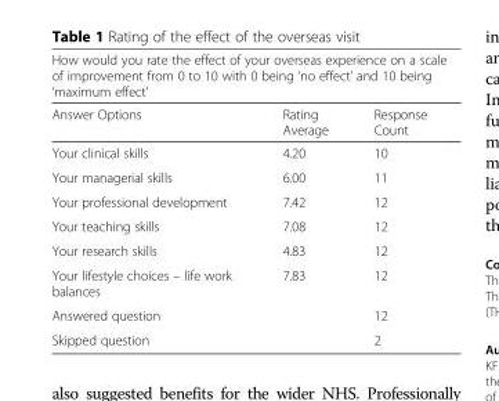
<table><thead><tr><td colspan="3">How would you rate the effect of your overseas experience on a scale of improvement from 0 to 10 with 0 being ‘no effect’ and 10 being ‘maximum effect’</td></tr><tr><td>Answer Options</td><td>Rating Average</td><td>Response Count</td></tr></thead><tbody><tr><td>Your clinical skills</td><td>4.20</td><td>10</td></tr><tr><td>Your managerial skills</td><td>6.00</td><td>11</td></tr><tr><td>Your professional development</td><td>7.42</td><td>12</td></tr><tr><td>Your teaching skills</td><td>7.08</td><td>12</td></tr><tr><td>Your research skills</td><td>4.83</td><td>12</td></tr><tr><td>Your lifestyle choices – life work balances</td><td>7.83</td><td>12</td></tr><tr><td colspan="2">Answered question</td><td>12</td></tr><tr><td colspan="2">Skipped question</td><td>2</td></tr></tbody></table>